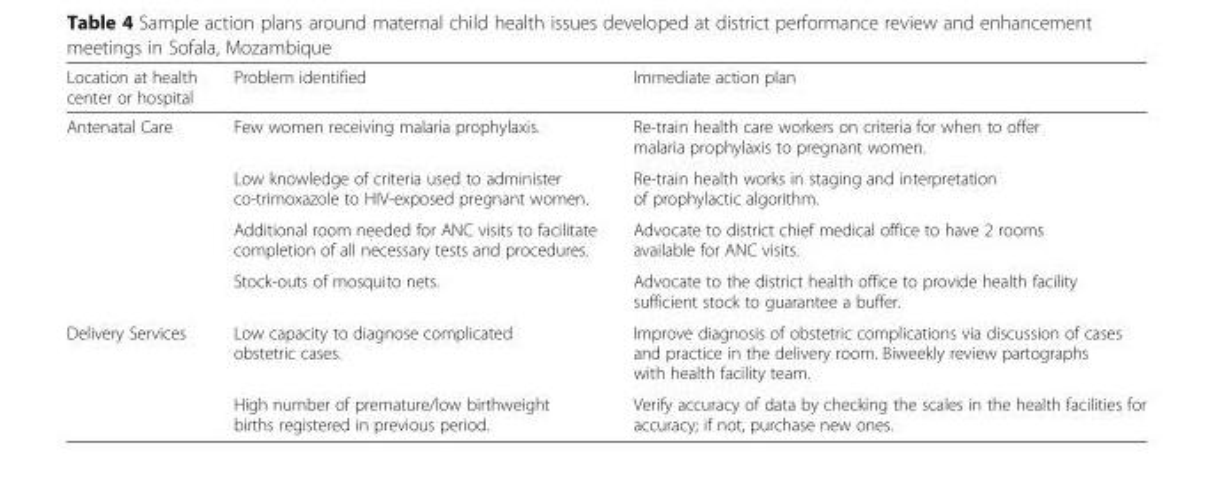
<table><thead><tr><td>Location at health center or hospital</td><td>Problem identified</td><td>Immediate action plan</td></tr></thead><tbody><tr><td rowspan="4">Antenatal Care</td><td>Few women receiving malaria prophylaxis.</td><td>Re-train health care workers on criteria for when to offer malaria prophylaxis to pregnant women.</td></tr><tr><td>Low knowledge of criteria used to administer co-trimoxazole to HIV-exposed pregnant women.</td><td>Re-train health works in staging and interpretation of prophylactic algorithm.</td></tr><tr><td>Additional room needed for ANC visits to facilitate completion of all necessary tests and procedures.</td><td>Advocate to district chief medical office to have 2 rooms available for ANC visits.</td></tr><tr><td>Stock-outs of mosquito nets.</td><td>Advocate to the district health office to provide health facility sufficient stock to guarantee a buffer.</td></tr><tr><td rowspan="2">Delivery Services</td><td>Low capacity to diagnose complicated obstetric cases.</td><td>Improve diagnosis of obstetric complications via discussion of cases and practice in the delivery room. Biweekly review partographs with health facility team.</td></tr><tr><td>High number of premature/low birthweight births registered in previous period.</td><td>Verify accuracy of data by checking the scales in the health facilities for accuracy; if not, purchase new ones.</td></tr></tbody></table>